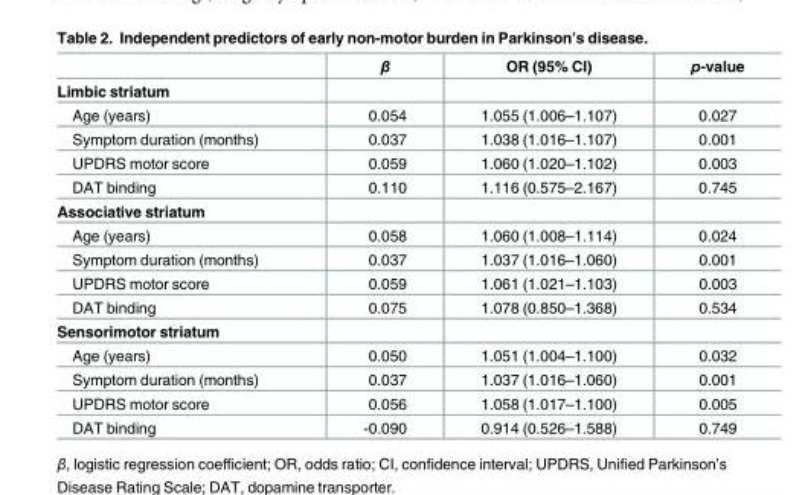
<table><thead><tr><td></td><td>β</td><td>OR (95% CI)</td><td>p-value</td></tr></thead><tbody><tr><td colspan="4">Limbic striatum</td></tr><tr><td>Age (years)</td><td>0.054</td><td>1.055 (1.006–1.107)</td><td>0.027</td></tr><tr><td>Symptom duration (months)</td><td>0.037</td><td>1.038 (1.016–1.107)</td><td>0.001</td></tr><tr><td>UPDRS motor score</td><td>0.059</td><td>1.060 (1.020–1.102)</td><td>0.003</td></tr><tr><td>DAT binding</td><td>0.110</td><td>1.116 (0.575–2.167)</td><td>0.745</td></tr><tr><td colspan="4">Associative striatum</td></tr><tr><td>Age (years)</td><td>0.058</td><td>1.060 (1.008–1.114)</td><td>0.024</td></tr><tr><td>Symptom duration (months)</td><td>0.037</td><td>1.037 (1.016–1.060)</td><td>0.001</td></tr><tr><td>UPDRS motor score</td><td>0.059</td><td>1.061 (1.021–1.103)</td><td>0.003</td></tr><tr><td>DAT binding</td><td>0.075</td><td>1.078 (0.850–1.368)</td><td>0.534</td></tr><tr><td colspan="4">Sensorimotor striatum</td></tr><tr><td>Age (years)</td><td>0.050</td><td>1.051 (1.004–1.100)</td><td>0.032</td></tr><tr><td>Symptom duration (months)</td><td>0.037</td><td>1.037 (1.016–1.060)</td><td>0.001</td></tr><tr><td>UPDRS motor score</td><td>0.056</td><td>1.058 (1.017–1.100)</td><td>0.005</td></tr><tr><td>DAT binding</td><td>-0.090</td><td>0.914 (0.526–1.588)</td><td>0.749</td></tr></tbody></table>